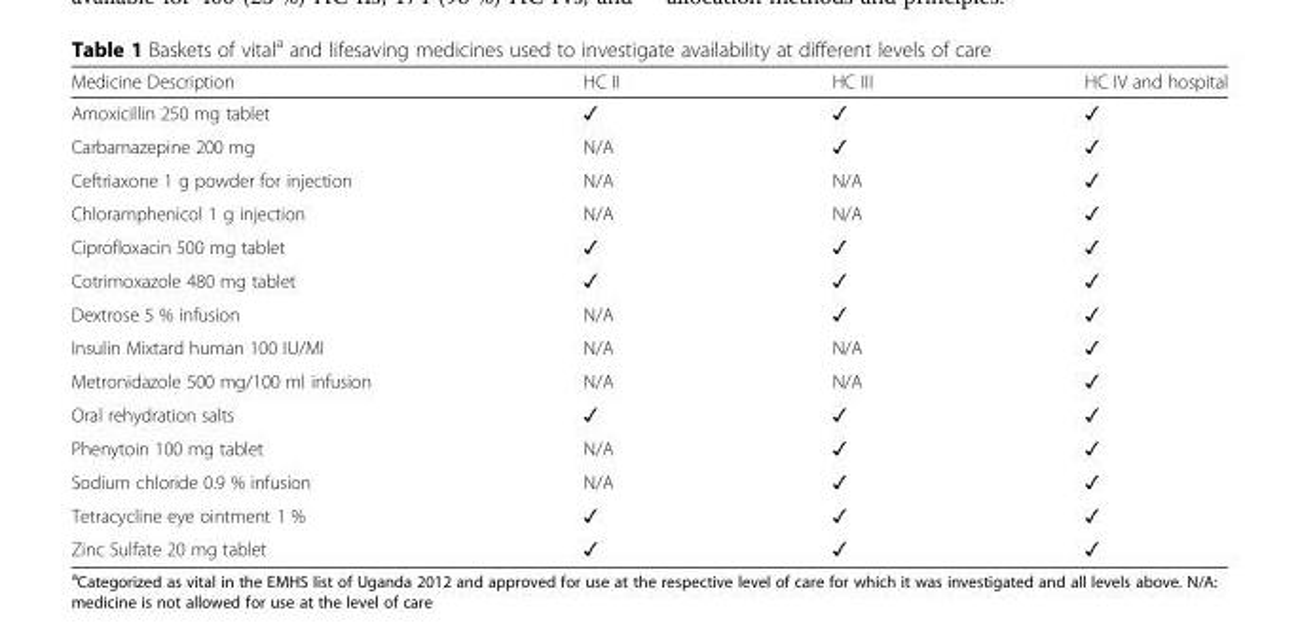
<table><thead><tr><td>Medicine Description</td><td>HC II</td><td>HC III</td><td>HC IV and hospital</td></tr></thead><tbody><tr><td>Amoxicillin 250 mg tablet</td><td>✓</td><td>✓</td><td>✓</td></tr><tr><td>Carbamazepine 200 mg</td><td>N/A</td><td>✓</td><td>✓</td></tr><tr><td>Ceftriaxone 1 g powder for injection</td><td>N/A</td><td>N/A</td><td>✓</td></tr><tr><td>Chloramphenicol 1 g injection</td><td>N/A</td><td>N/A</td><td>✓</td></tr><tr><td>Ciprofloxacin 500 mg tablet</td><td>✓</td><td>✓</td><td>✓</td></tr><tr><td>Cotrimoxazole 480 mg tablet</td><td>✓</td><td>✓</td><td>✓</td></tr><tr><td>Dextrose 5 % infusion</td><td>N/A</td><td>✓</td><td>✓</td></tr><tr><td>Insulin Mixtard human 100 IU/Ml</td><td>N/A</td><td>N/A</td><td>✓</td></tr><tr><td>Metronidazole 500 mg/100 ml infusion</td><td>N/A</td><td>N/A</td><td>✓</td></tr><tr><td>Oral rehydration salts</td><td>✓</td><td>✓</td><td>✓</td></tr><tr><td>Phenytoin 100 mg tablet</td><td>N/A</td><td>✓</td><td>✓</td></tr><tr><td>Sodium chloride 0.9 % infusion</td><td>N/A</td><td>✓</td><td>✓</td></tr><tr><td>Tetracycline eye ointment 1 %</td><td>✓</td><td>✓</td><td>✓</td></tr><tr><td>Zinc Sulfate 20 mg tablet</td><td>✓</td><td>✓</td><td>✓</td></tr></tbody></table>